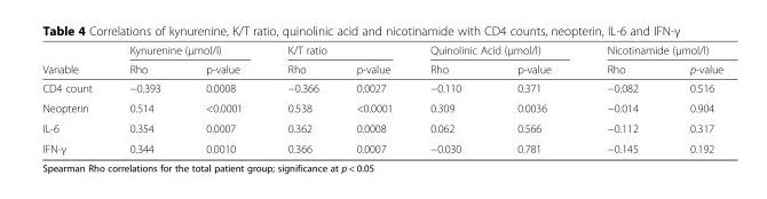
<table><thead><tr><td rowspan="2">Variable</td><td colspan="2">Kynurenine (μmol/l)</td><td colspan="2">K/T ratio</td><td colspan="2">Quinolinic Acid (μmol/l)</td><td colspan="2">Nicotinamide (μmol/l)</td></tr><tr><td>Rho</td><td>p-value</td><td>Rho</td><td>p-value</td><td>Rho</td><td>p-value</td><td>Rho</td><td>p-value</td></tr></thead><tbody><tr><td>CD4 count</td><td>−0.393</td><td>0.0008</td><td>−0.366</td><td>0.0027</td><td>−0.110</td><td>0.371</td><td>−0.082</td><td>0.516</td></tr><tr><td>Neopterin</td><td>0.514</td><td>&lt;0.0001</td><td>0.538</td><td>&lt;0.0001</td><td>0.309</td><td>0.0036</td><td>−0.014</td><td>0.904</td></tr><tr><td>IL-6</td><td>0.354</td><td>0.0007</td><td>0.362</td><td>0.0008</td><td>0.062</td><td>0.566</td><td>−0.112</td><td>0.317</td></tr><tr><td>IFN-γ</td><td>0.344</td><td>0.0010</td><td>0.366</td><td>0.0007</td><td>−0.030</td><td>0.781</td><td>−0.145</td><td>0.192</td></tr></tbody></table>